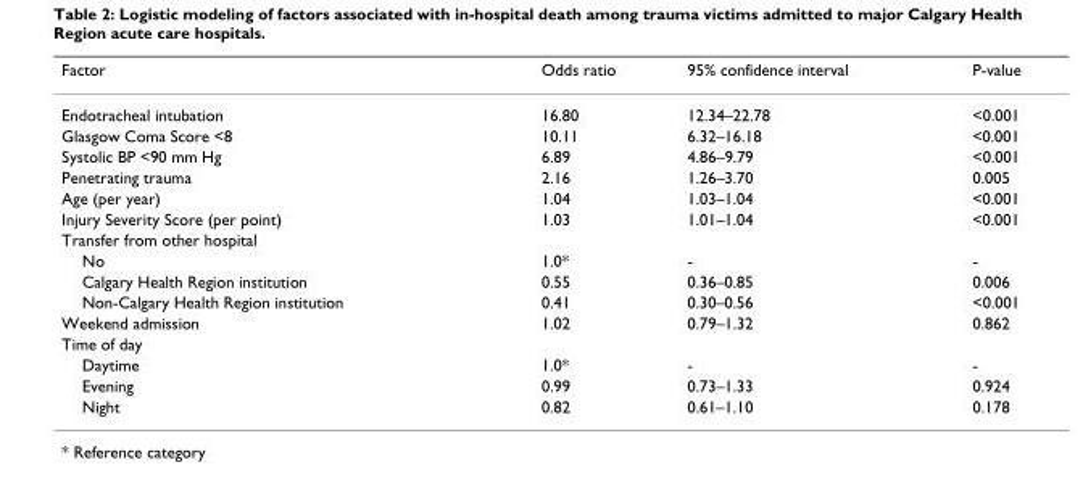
<table><thead><tr><td>Factor</td><td>Odds ratio</td><td>95% confidence interval</td><td>P-value</td></tr></thead><tbody><tr><td>Endotracheal intubation</td><td>16.80</td><td>12.34–22.78</td><td>&lt;0.001</td></tr><tr><td>Glasgow Coma Score &lt;8</td><td>10.11</td><td>6.32–16.18</td><td>&lt;0.001</td></tr><tr><td>Systolic BP &lt;90 mm Hg</td><td>6.89</td><td>4.86–9.79</td><td>&lt;0.001</td></tr><tr><td>Penetrating trauma</td><td>2.16</td><td>1.26–3.70</td><td>0.005</td></tr><tr><td>Age (per year)</td><td>1.04</td><td>1.03–1.04</td><td>&lt;0.001</td></tr><tr><td>Injury Severity Score (per point)</td><td>1.03</td><td>1.01–1.04</td><td>&lt;0.001</td></tr><tr><td colspan="4">Transfer from other hospital</td></tr><tr><td>No</td><td>1.0*</td><td>-</td><td>-</td></tr><tr><td>Calgary Health Region institution</td><td>0.55</td><td>0.36–0.85</td><td>0.006</td></tr><tr><td>Non-Calgary Health Region institution</td><td>0.41</td><td>0.30–0.56</td><td>&lt;0.001</td></tr><tr><td>Weekend admission</td><td>1.02</td><td>0.79–1.32</td><td>0.862</td></tr><tr><td colspan="4">Time of day</td></tr><tr><td>Daytime</td><td>1.0*</td><td>-</td><td>-</td></tr><tr><td>Evening</td><td>0.99</td><td>0.73–1.33</td><td>0.924</td></tr><tr><td>Night</td><td>0.82</td><td>0.61–1.10</td><td>0.178</td></tr></tbody></table>